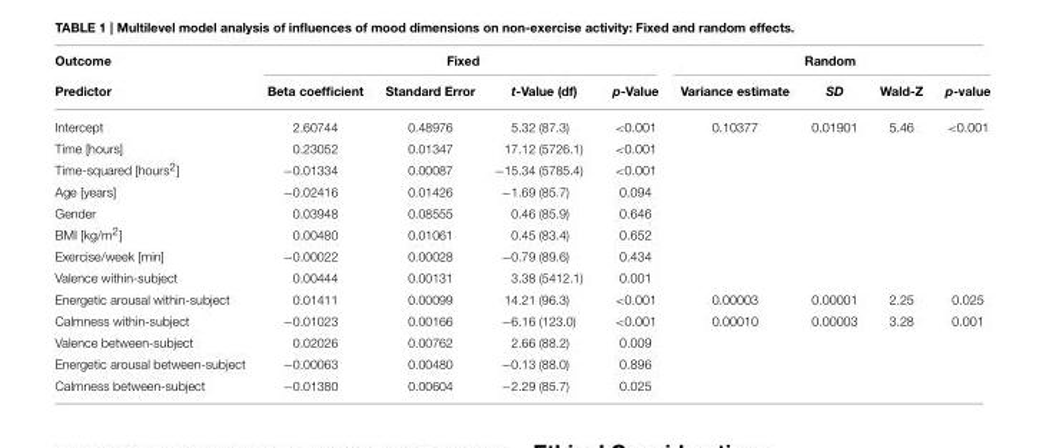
<table><thead><tr><td rowspan="2">Outcome Predictor</td><td colspan="4">Fixed</td><td colspan="4">Random</td></tr><tr><td>Beta coefficient</td><td>Standard Error</td><td>t-Value (df)</td><td>p-Value</td><td>Variance estimate</td><td>SD</td><td>Wald-Z</td><td>p-value</td></tr></thead><tbody><tr><td>Intercept</td><td>2.60744</td><td>0.48976</td><td>5.32 (87.3)</td><td>&lt;0.001</td><td>0.10377</td><td>0.01901</td><td>5.46</td><td>&lt;0.001</td></tr><tr><td>Time [hours]</td><td>0.23052</td><td>0.01347</td><td>17.12 (5726.1)</td><td>&lt;0.001</td><td></td><td></td><td></td><td></td></tr><tr><td>Time-squared [hours<sup>2</sup>]</td><td>−0.01334</td><td>0.00087</td><td>−15.34 (5785.4)</td><td>&lt;0.001</td><td></td><td></td><td></td><td></td></tr><tr><td>Age [years]</td><td>−0.02416</td><td>0.01426</td><td>−1.69 (85.7)</td><td>0.094</td><td></td><td></td><td></td><td></td></tr><tr><td>Gender</td><td>0.03948</td><td>0.08555</td><td>0.46 (85.9)</td><td>0.646</td><td></td><td></td><td></td><td></td></tr><tr><td>BMI [kg/m<sup>2</sup>]</td><td>0.00480</td><td>0.01061</td><td>0.45 (83.4)</td><td>0.652</td><td></td><td></td><td></td><td></td></tr><tr><td>Exercise/week [min]</td><td>−0.00022</td><td>0.00028</td><td>−0.79 (89.6)</td><td>0.434</td><td></td><td></td><td></td><td></td></tr><tr><td>Valence within-subject</td><td>0.00444</td><td>0.00131</td><td>3.38 (5412.1)</td><td>0.001</td><td></td><td></td><td></td><td></td></tr><tr><td>Energetic arousal within-subject</td><td>0.01411</td><td>0.00099</td><td>14.21 (96.3)</td><td>&lt;0.001</td><td>0.00003</td><td>0.00001</td><td>2.25</td><td>0.025</td></tr><tr><td>Calmness within-subject</td><td>−0.01023</td><td>0.00166</td><td>−6.16 (123.0)</td><td>&lt;0.001</td><td>0.00010</td><td>0.00003</td><td>3.28</td><td>0.001</td></tr><tr><td>Valence between-subject</td><td>0.02026</td><td>0.00762</td><td>2.66 (88.2)</td><td>0.009</td><td></td><td></td><td></td><td></td></tr><tr><td>Energetic arousal between-subject</td><td>−0.00063</td><td>0.00480</td><td>−0.13 (88.0)</td><td>0.896</td><td></td><td></td><td></td><td></td></tr><tr><td>Calmness between-subject</td><td>−0.01380</td><td>0.00604</td><td>−2.29 (85.7)</td><td>0.025</td><td></td><td></td><td></td><td></td></tr></tbody></table>